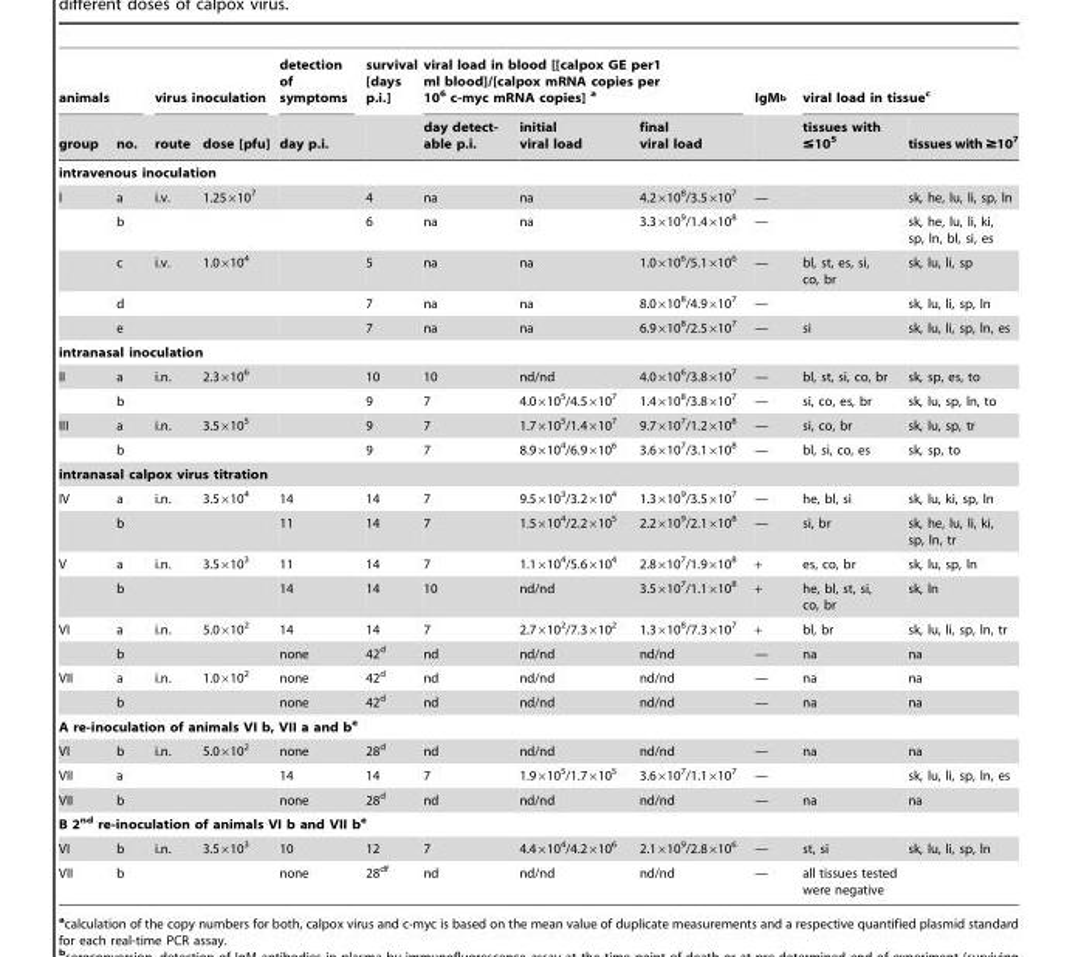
<table><thead><tr><td colspan="2">animals</td><td colspan="2">virus inoculation</td><td rowspan="2">detection of symptoms day p.i.</td><td rowspan="2">survival [days p.i.]</td><td colspan="3">viral load in blood [[calpox GE per1 ml blood]/[calpox mRNA copies per 10<sup>6</sup> c-myc mRNA copies] a</td><td rowspan="2">IgM<sup>b</sup></td><td colspan="2">viral load in tissue<sup>c</sup></td></tr><tr><td>group</td><td>no.</td><td>route</td><td>dose [pfu]</td><td>day detect- able p.i.</td><td>initial viral load</td><td>final viral load</td><td>tissues with ≤10<sup>5</sup></td><td>tissues with ≥10<sup>7</sup></td></tr></thead><tbody><tr><td colspan="12">intravenous inoculation</td></tr><tr><td rowspan="5">I</td><td>a</td><td>i.v.</td><td>1.25×10<sup>7</sup></td><td></td><td>4</td><td>na</td><td>na</td><td>4.2×10<sup>8</sup>/3.5×10<sup>7</sup></td><td>—</td><td></td><td>sk, he, lu, li, sp, ln</td></tr><tr><td>b</td><td></td><td></td><td></td><td>6</td><td>na</td><td>na</td><td>3.3×10<sup>9</sup>/1.4×10<sup>8</sup></td><td>—</td><td></td><td>sk, he, lu, li, ki, sp, ln, bl, si, es</td></tr><tr><td>c</td><td>i.v.</td><td>1.0×10<sup>4</sup></td><td></td><td>5</td><td>na</td><td>na</td><td>1.0×10<sup>6</sup>/5.1×10<sup>6</sup></td><td>—</td><td>bl, st, es, si, co, br</td><td>sk, lu, li, sp</td></tr><tr><td>d</td><td></td><td></td><td></td><td>7</td><td>na</td><td>na</td><td>8.0×10<sup>8</sup>/4.9×10<sup>7</sup></td><td>—</td><td></td><td>sk, lu, li, sp, ln</td></tr><tr><td>e</td><td></td><td></td><td></td><td>7</td><td>na</td><td>na</td><td>6.9×10<sup>8</sup>/2.5×10<sup>7</sup></td><td>—</td><td>si</td><td>sk, lu, li, sp, ln, es</td></tr><tr><td colspan="12">intranasal inoculation</td></tr><tr><td rowspan="2">II</td><td>a</td><td>i.n.</td><td>2.3×10<sup>6</sup></td><td></td><td>10</td><td>10</td><td>nd/nd</td><td>4.0×10<sup>6</sup>/3.8×10<sup>7</sup></td><td>—</td><td>bl, st, si, co, br</td><td>sk, sp, es, to</td></tr><tr><td>b</td><td></td><td></td><td></td><td>9</td><td>7</td><td>4.0×10<sup>5</sup>/4.5×10<sup>7</sup></td><td>1.4×10<sup>8</sup>/3.8×10<sup>7</sup></td><td>—</td><td>si, co, es, br</td><td>sk, lu, sp, ln, to</td></tr><tr><td rowspan="2">III</td><td>a</td><td>i.n.</td><td>3.5×10<sup>5</sup></td><td></td><td>9</td><td>7</td><td>1.7×10<sup>5</sup>/1.4×10<sup>7</sup></td><td>9.7×10<sup>7</sup>/1.2×10<sup>8</sup></td><td>—</td><td>si, co, br</td><td>sk, lu, sp, tr</td></tr><tr><td>b</td><td></td><td></td><td></td><td>9</td><td>7</td><td>8.9×10<sup>4</sup>/6.9×10<sup>6</sup></td><td>3.6×10<sup>7</sup>/3.1×10<sup>8</sup></td><td>—</td><td>bl, si, co, es</td><td>sk, sp, to</td></tr><tr><td colspan="12">intranasal calpox virus titration</td></tr><tr><td rowspan="2">IV</td><td>a</td><td>i.n.</td><td>3.5×10<sup>4</sup></td><td>14</td><td>14</td><td>7</td><td>9.5×10<sup>3</sup>/3.2×10<sup>4</sup></td><td>1.3×10<sup>9</sup>/3.5×10<sup>7</sup></td><td>—</td><td>he, bl, si</td><td>sk, lu, ki, sp, ln</td></tr><tr><td>b</td><td></td><td></td><td>11</td><td>14</td><td>7</td><td>1.5×10<sup>4</sup>/2.2×10<sup>5</sup></td><td>2.2×10<sup>9</sup>/2.1×10<sup>8</sup></td><td>—</td><td>si, br</td><td>sk, he, lu, li, ki, sp, ln, tr</td></tr><tr><td rowspan="2">V</td><td>a</td><td>i.n.</td><td>3.5×10<sup>3</sup></td><td>11</td><td>14</td><td>7</td><td>1.1×10<sup>4</sup>/5.6×10<sup>4</sup></td><td>2.8×10<sup>7</sup>/1.9×10<sup>8</sup></td><td>+</td><td>es, co, br</td><td>sk, lu, sp, ln</td></tr><tr><td>b</td><td></td><td></td><td>14</td><td>14</td><td>10</td><td>nd/nd</td><td>3.5×10<sup>7</sup>/1.1×10<sup>8</sup></td><td>+</td><td>he, bl, st, si, co, br</td><td>sk, ln</td></tr><tr><td rowspan="2">VI</td><td>a</td><td>i.n.</td><td>5.0×10<sup>2</sup></td><td>14</td><td>14</td><td>7</td><td>2.7×10<sup>2</sup>/7.3×10<sup>2</sup></td><td>1.3×10<sup>8</sup>/7.3×10<sup>7</sup></td><td>+</td><td>bl, br</td><td>sk, lu, li, sp, ln, tr</td></tr><tr><td>b</td><td></td><td></td><td>none</td><td>42<sup>d</sup></td><td>nd</td><td>nd/nd</td><td>nd/nd</td><td>—</td><td>na</td><td>na</td></tr><tr><td rowspan="2">VII</td><td>a</td><td>i.n.</td><td>1.0×10<sup>2</sup></td><td>none</td><td>42<sup>d</sup></td><td>nd</td><td>nd/nd</td><td>nd/nd</td><td>—</td><td>na</td><td>na</td></tr><tr><td>b</td><td></td><td></td><td>none</td><td>42<sup>d</sup></td><td>nd</td><td>nd/nd</td><td>nd/nd</td><td>—</td><td>na</td><td>na</td></tr><tr><td colspan="12">A re-inoculation of animals VI b, VII a and be</td></tr><tr><td>VI</td><td>b</td><td>i.n.</td><td>5.0×10<sup>2</sup></td><td>none</td><td>28<sup>d</sup></td><td>nd</td><td>nd/nd</td><td>nd/nd</td><td>—</td><td>na</td><td>na</td></tr><tr><td>VII</td><td>a</td><td></td><td></td><td>14</td><td>14</td><td>7</td><td>1.9×10<sup>5</sup>/1.7×10<sup>5</sup></td><td>3.6×10<sup>7</sup>/1.1×10<sup>7</sup></td><td>—</td><td></td><td>sk, lu, li, sp, ln, es</td></tr><tr><td>VII</td><td>b</td><td></td><td></td><td>none</td><td>28<sup>d</sup></td><td>nd</td><td>nd/nd</td><td>nd/nd</td><td>—</td><td>na</td><td>na</td></tr><tr><td colspan="12">B 2<sup>nd</sup> re-inoculation of animals VI b and VII be</td></tr><tr><td>VI</td><td>b</td><td>i.n.</td><td>3.5×10<sup>3</sup></td><td>10</td><td>12</td><td>7</td><td>4.4×10<sup>4</sup>/4.2×10<sup>6</sup></td><td>2.1×10<sup>9</sup>/2.8×10<sup>6</sup></td><td>—</td><td>st, si</td><td>sk, lu, li, sp, ln</td></tr><tr><td>VII</td><td>b</td><td></td><td></td><td>none</td><td>28<sup>df</sup></td><td>nd</td><td>nd/nd</td><td>nd/nd</td><td>—</td><td colspan="2">all tissues tested were negative</td></tr></tbody></table>